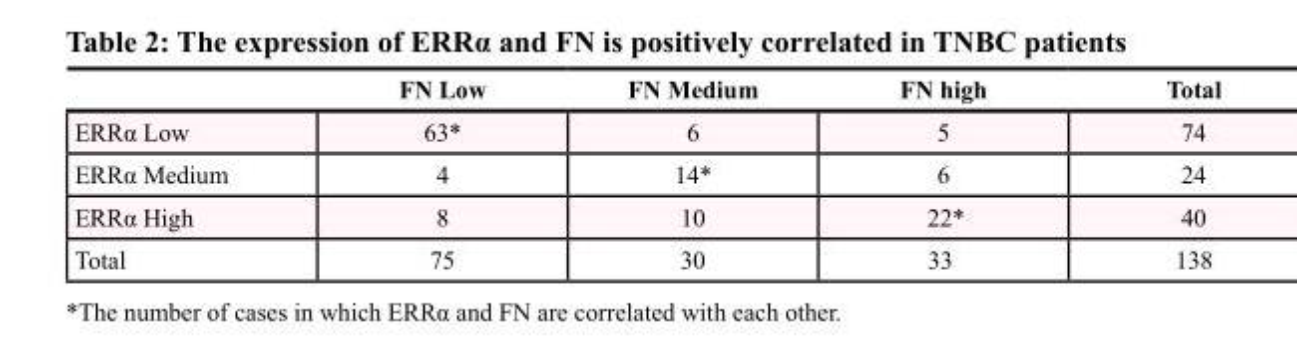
<table><thead><tr><td></td><td>FN Low</td><td>FN Medium</td><td>FN high</td><td>Total</td></tr></thead><tbody><tr><td>ERRα Low</td><td>63*</td><td>6</td><td>5</td><td>74</td></tr><tr><td>ERRα Medium</td><td>4</td><td>14*</td><td>6</td><td>24</td></tr><tr><td>ERRα High</td><td>8</td><td>10</td><td>22*</td><td>40</td></tr><tr><td>Total</td><td>75</td><td>30</td><td>33</td><td>138</td></tr></tbody></table>